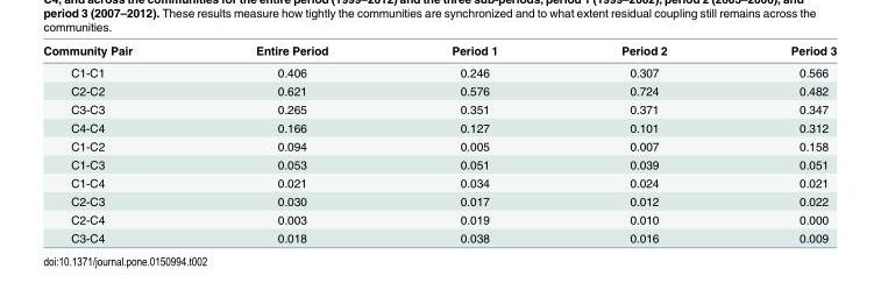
<table><thead><tr><td>Community Pair</td><td>Entire Period</td><td>Period 1</td><td>Period 2</td><td>Period 3</td></tr></thead><tbody><tr><td>C1-C1</td><td>0.406</td><td>0.246</td><td>0.307</td><td>0.566</td></tr><tr><td>C2-C2</td><td>0.621</td><td>0.576</td><td>0.724</td><td>0.482</td></tr><tr><td>C3-C3</td><td>0.265</td><td>0.351</td><td>0.371</td><td>0.347</td></tr><tr><td>C4-C4</td><td>0.166</td><td>0.127</td><td>0.101</td><td>0.312</td></tr><tr><td>C1-C2</td><td>0.094</td><td>0.005</td><td>0.007</td><td>0.158</td></tr><tr><td>C1-C3</td><td>0.053</td><td>0.051</td><td>0.039</td><td>0.051</td></tr><tr><td>C1-C4</td><td>0.021</td><td>0.034</td><td>0.024</td><td>0.021</td></tr><tr><td>C2-C3</td><td>0.030</td><td>0.017</td><td>0.012</td><td>0.022</td></tr><tr><td>C2-C4</td><td>0.003</td><td>0.019</td><td>0.010</td><td>0.000</td></tr><tr><td>C3-C4</td><td>0.018</td><td>0.038</td><td>0.016</td><td>0.009</td></tr></tbody></table>